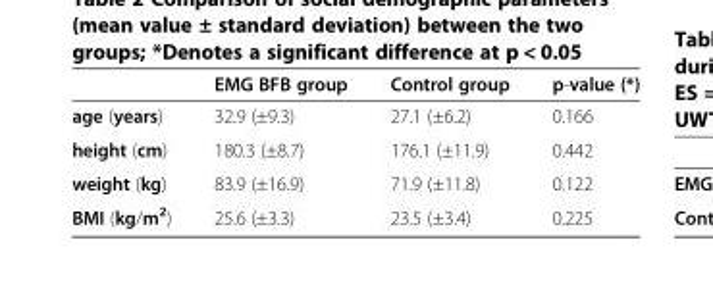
<table><thead><tr><td></td><td>EMG BFB group</td><td>Control group</td><td>p-value (*)</td></tr></thead><tbody><tr><td>age (years)</td><td>32.9 (±9.3)</td><td>27.1 (±6.2)</td><td>0.166</td></tr><tr><td>height (cm)</td><td>180.3 (±8.7)</td><td>176.1 (±11.9)</td><td>0.442</td></tr><tr><td>weight (kg)</td><td>83.9 (±16.9)</td><td>71.9 (±11.8)</td><td>0.122</td></tr><tr><td>BMI (kg/m<sup>2</sup>)</td><td>25.6 (±3.3)</td><td>23.5 (±3.4)</td><td>0.225</td></tr></tbody></table>